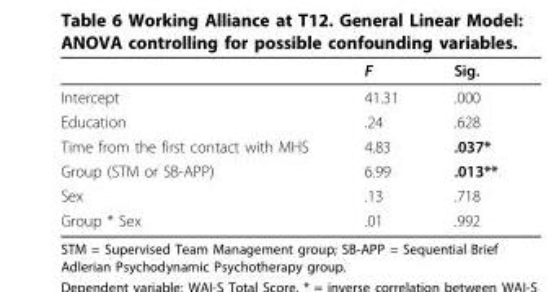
<table><thead><tr><td></td><td>F</td><td>Sig.</td></tr></thead><tbody><tr><td>Intercept</td><td>41.31</td><td>.000</td></tr><tr><td>Education</td><td>.24</td><td>.628</td></tr><tr><td>Time from the first contact with MHS</td><td>4.83</td><td>.037*</td></tr><tr><td>Group (STM or SB-APP)</td><td>6.99</td><td>.013**</td></tr><tr><td>Sex</td><td>.13</td><td>.718</td></tr><tr><td>Group * Sex</td><td>.01</td><td>.992</td></tr></tbody></table>